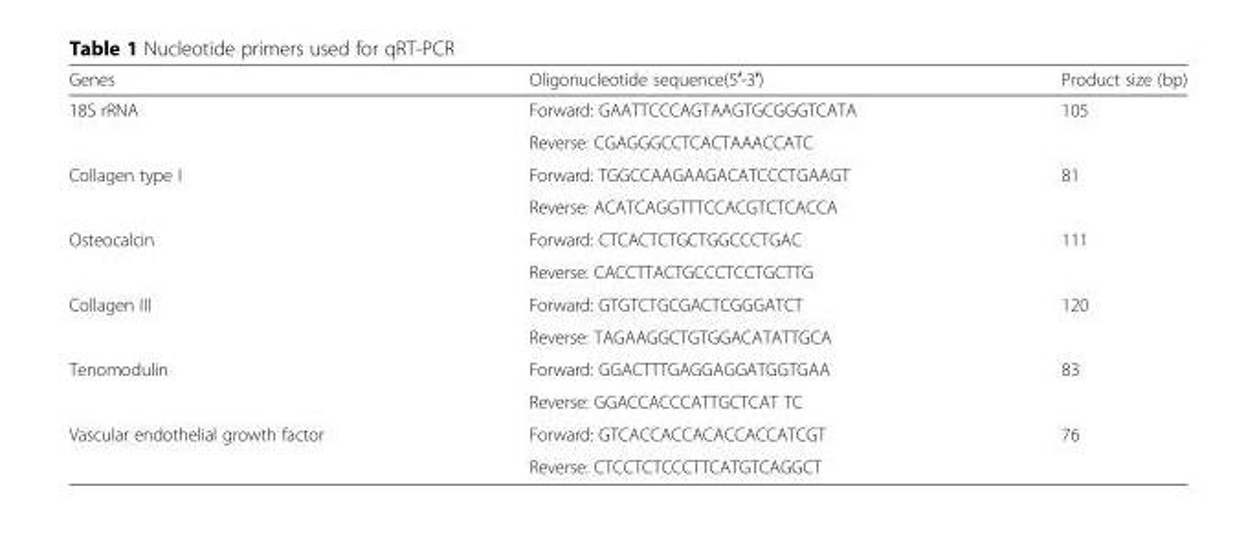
<table><thead><tr><td>Genes</td><td>Oligonucleotide sequence(5′-3′)</td><td>Product size (bp)</td></tr></thead><tbody><tr><td rowspan="2">18S rRNA</td><td>Forward: GAATTCCCAGTAAGTGCGGGTCATA</td><td rowspan="2">105</td></tr><tr><td>Reverse: CGAGGGCCTCACTAAACCATC</td></tr><tr><td rowspan="2">Collagen type I</td><td>Forward: TGGCCAAGAAGACATCCCTGAAGT</td><td rowspan="2">81</td></tr><tr><td>Reverse: ACATCAGGTTTCCACGTCTCACCA</td></tr><tr><td rowspan="2">Osteocalcin</td><td>Forward: CTCACTCTGCTGGCCCTGAC</td><td rowspan="2">111</td></tr><tr><td>Reverse: CACCTTACTGCCCTCCTGCTTG</td></tr><tr><td rowspan="2">Collagen III</td><td>Forward: GTGTCTGCGACTCGGGATCT</td><td rowspan="2">120</td></tr><tr><td>Reverse: TAGAAGGCTGTGGACATATTGCA</td></tr><tr><td rowspan="2">Tenomodulin</td><td>Forward: GGACTTTGAGGAGGATGGTGAA</td><td rowspan="2">83</td></tr><tr><td>Reverse: GGACCACCCATTGCTCAT TC</td></tr><tr><td rowspan="2">Vascular endothelial growth factor</td><td>Forward: GTCACCACCACACCACCATCGT</td><td rowspan="2">76</td></tr><tr><td>Reverse: CTCCTCTCCCTTCATGTCAGGCT</td></tr></tbody></table>